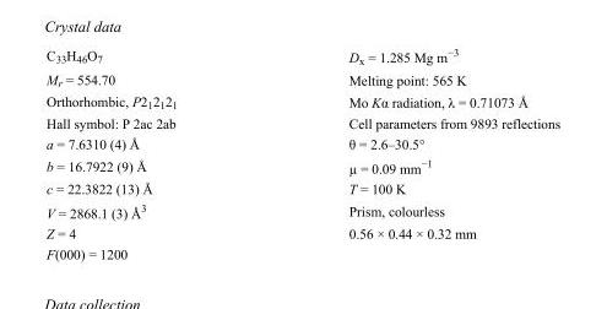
<table><tbody><tr><td>C<sub>33</sub>H<sub>46</sub>O<sub>7</sub></td><td>D<sub>x</sub> = 1.285 Mg m<sup>−3</sup></td></tr><tr><td>M<sub>r</sub> = 554.70</td><td>Melting point: 565 K</td></tr><tr><td>Orthorhombic, P2<sub>1</sub>2<sub>1</sub>2<sub>1</sub></td><td>Mo Kα radiation, λ = 0.71073 Å</td></tr><tr><td>Hall symbol: P 2ac 2ab</td><td>Cell parameters from 9893 reflections</td></tr><tr><td>a = 7.6310 (4) Å</td><td>θ = 2.6–30.5°</td></tr><tr><td>b = 16.7922 (9) Å</td><td>µ = 0.09 mm<sup>−1</sup></td></tr><tr><td>c = 22.3822 (13) Å</td><td>T = 100 K</td></tr><tr><td>V = 2868.1 (3) Å<sup>3</sup></td><td>Prism, colourless</td></tr><tr><td>Z = 4</td><td>0.56 × 0.44 × 0.32 mm</td></tr><tr><td>F(000) = 1200</td><td></td></tr></tbody></table>